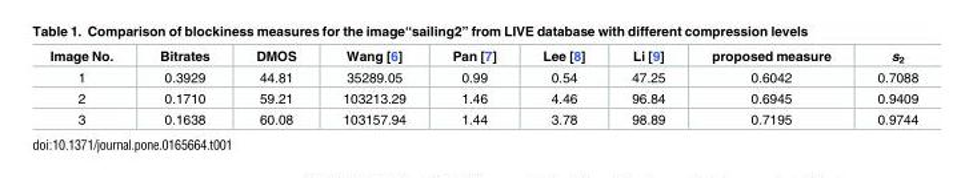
<table><thead><tr><td>Image No.</td><td>Bitrates</td><td>DMOS</td><td>Wang [6]</td><td>Pan [7]</td><td>Lee [8]</td><td>Li [9]</td><td>proposed measure</td><td>s<sub>2</sub></td></tr></thead><tbody><tr><td>1</td><td>0.3929</td><td>44.81</td><td>35289.05</td><td>0.99</td><td>0.54</td><td>47.25</td><td>0.6042</td><td>0.7088</td></tr><tr><td>2</td><td>0.1710</td><td>59.21</td><td>103213.29</td><td>1.46</td><td>4.46</td><td>96.84</td><td>0.6945</td><td>0.9409</td></tr><tr><td>3</td><td>0.1638</td><td>60.08</td><td>103157.94</td><td>1.44</td><td>3.78</td><td>98.89</td><td>0.7195</td><td>0.9744</td></tr></tbody></table>